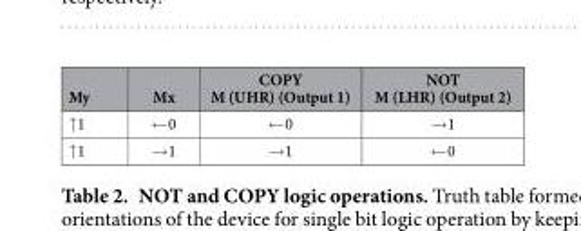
<table><thead><tr><td>My</td><td>Mx</td><td>COPY M (UHR) (Output 1)</td><td>NOT M (LHR) (Output 2)</td></tr></thead><tbody><tr><td>↑ 1</td><td>← 0</td><td>← 0</td><td>→ 1</td></tr><tr><td>↑ 1</td><td>→ 1</td><td>→ 1</td><td>← 0</td></tr></tbody></table>